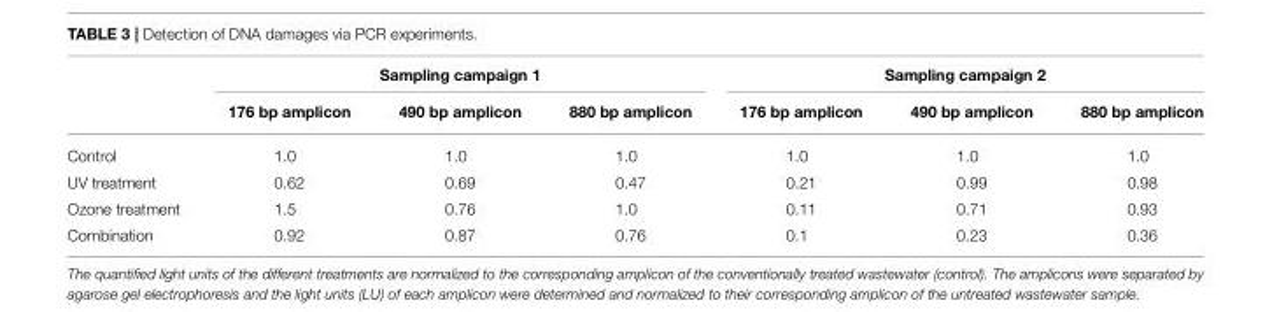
<table><thead><tr><td rowspan="2"></td><td colspan="3">Sampling campaign 1</td><td colspan="3">Sampling campaign 2</td></tr><tr><td>176 bp amplicon</td><td>490 bp amplicon</td><td>880 bp amplicon</td><td>176 bp amplicon</td><td>490 bp amplicon</td><td>880 bp amplicon</td></tr></thead><tbody><tr><td>Control</td><td>1.0</td><td>1.0</td><td>1.0</td><td>1.0</td><td>1.0</td><td>1.0</td></tr><tr><td>UV treatment</td><td>0.62</td><td>0.69</td><td>0.47</td><td>0.21</td><td>0.99</td><td>0.98</td></tr><tr><td>Ozone treatment</td><td>1.5</td><td>0.76</td><td>1.0</td><td>0.11</td><td>0.71</td><td>0.93</td></tr><tr><td>Combination</td><td>0.92</td><td>0.87</td><td>0.76</td><td>0.1</td><td>0.23</td><td>0.36</td></tr></tbody></table>